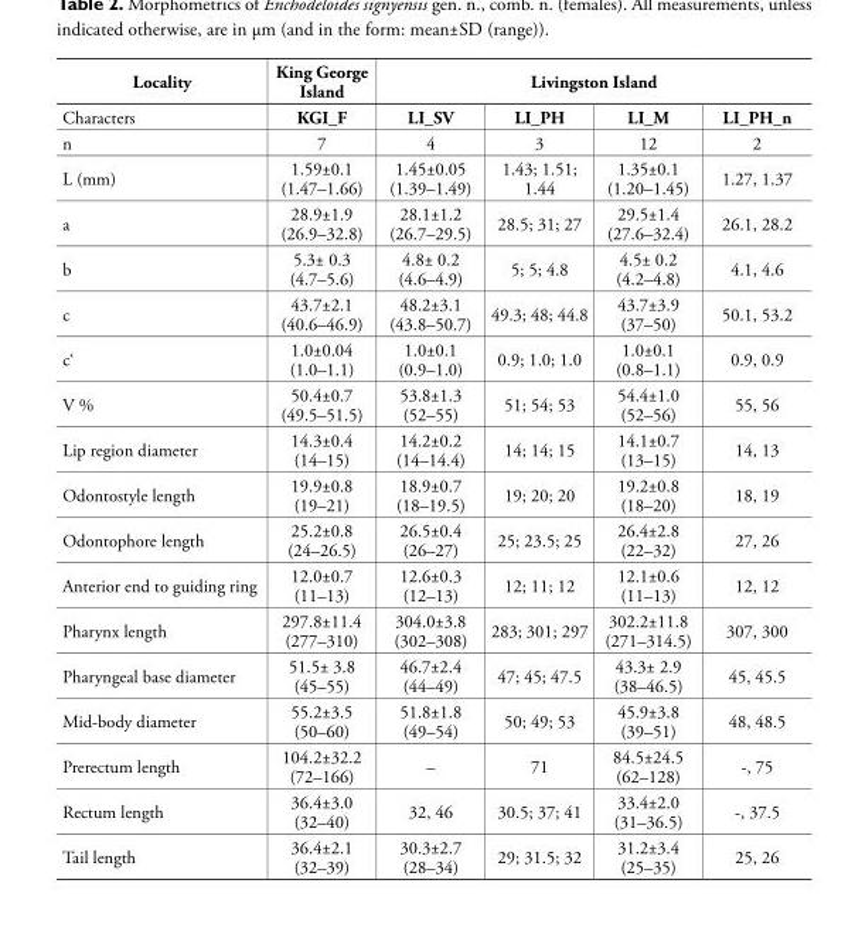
<table><thead><tr><td rowspan="2">Locality Characters</td><td rowspan="2">King George Island KGI_F</td><td colspan="4">Livingston Island</td></tr><tr><td>LI_SV</td><td>LI_PH</td><td>LI_M</td><td>LI_PH_n</td></tr></thead><tbody><tr><td>n</td><td>7</td><td>4</td><td>3</td><td>12</td><td>2</td></tr><tr><td>L (mm)</td><td>1.59±0.1 (1.47–1.66)</td><td>1.45±0.05 (1.39–1.49)</td><td>1.43; 1.51; 1.44</td><td>1.35±0.1 (1.20–1.45)</td><td>1.27, 1.37</td></tr><tr><td>a</td><td>28.9±1.9 (26.9–32.8)</td><td>28.1±1.2 (26.7–29.5)</td><td>28.5; 31; 27</td><td>29.5±1.4 (27.6–32.4)</td><td>26.1, 28.2</td></tr><tr><td>b</td><td>5.3± 0.3 (4.7–5.6)</td><td>4.8± 0.2 (4.6–4.9)</td><td>5; 5; 4.8</td><td>4.5± 0.2 (4.2–4.8)</td><td>4.1, 4.6</td></tr><tr><td>c</td><td>43.7±2.1 (40.6–46.9)</td><td>48.2±3.1 (43.8–50.7)</td><td>49.3; 48; 44.8</td><td>43.7±3.9 (37–50)</td><td>50.1, 53.2</td></tr><tr><td>c‘</td><td>1.0±0.04 (1.0–1.1)</td><td>1.0±0.1 (0.9–1.0)</td><td>0.9; 1.0; 1.0</td><td>1.0±0.1 (0.8–1.1)</td><td>0.9, 0.9</td></tr><tr><td>V %</td><td>50.4±0.7 (49.5–51.5)</td><td>53.8±1.3 (52–55)</td><td>51; 54; 53</td><td>54.4±1.0 (52–56)</td><td>55, 56</td></tr><tr><td>Lip region diameter</td><td>14.3±0.4 (14–15)</td><td>14.2±0.2 (14–14.4)</td><td>14; 14; 15</td><td>14.1±0.7 (13–15)</td><td>14, 13</td></tr><tr><td>Odontostyle length</td><td>19.9±0.8 (19–21)</td><td>18.9±0.7 (18–19.5)</td><td>19; 20; 20</td><td>19.2±0.8 (18–20)</td><td>18, 19</td></tr><tr><td>Odontophore length</td><td>25.2±0.8 (24–26.5)</td><td>26.5±0.4 (26–27)</td><td>25; 23.5; 25</td><td>26.4±2.8 (22–32)</td><td>27, 26</td></tr><tr><td>Anterior end to guiding ring</td><td>12.0±0.7 (11–13)</td><td>12.6±0.3 (12–13)</td><td>12; 11; 12</td><td>12.1±0.6 (11–13)</td><td>12, 12</td></tr><tr><td>Pharynx length</td><td>297.8±11.4 (277–310)</td><td>304.0±3.8 (302–308)</td><td>283; 301; 297</td><td>302.2±11.8 (271–314.5)</td><td>307, 300</td></tr><tr><td>Pharyngeal base diameter</td><td>51.5± 3.8 (45–55)</td><td>46.7±2.4 (44–49)</td><td>47; 45; 47.5</td><td>43.3± 2.9 (38–46.5)</td><td>45, 45.5</td></tr><tr><td>Mid-body diameter</td><td>55.2±3.5 (50–60)</td><td>51.8±1.8 (49–54)</td><td>50; 49; 53</td><td>45.9±3.8 (39–51)</td><td>48, 48.5</td></tr><tr><td>Prerectum length</td><td>104.2±32.2 (72–166)</td><td>–</td><td>71</td><td>84.5±24.5 (62–128)</td><td>-, 75</td></tr><tr><td>Rectum length</td><td>36.4±3.0 (32–40)</td><td>32, 46</td><td>30.5; 37; 41</td><td>33.4±2.0 (31–36.5)</td><td>-, 37.5</td></tr><tr><td>Tail length</td><td>36.4±2.1 (32–39)</td><td>30.3±2.7 (28–34)</td><td>29; 31.5; 32</td><td>31.2±3.4 (25–35)</td><td>25, 26</td></tr></tbody></table>